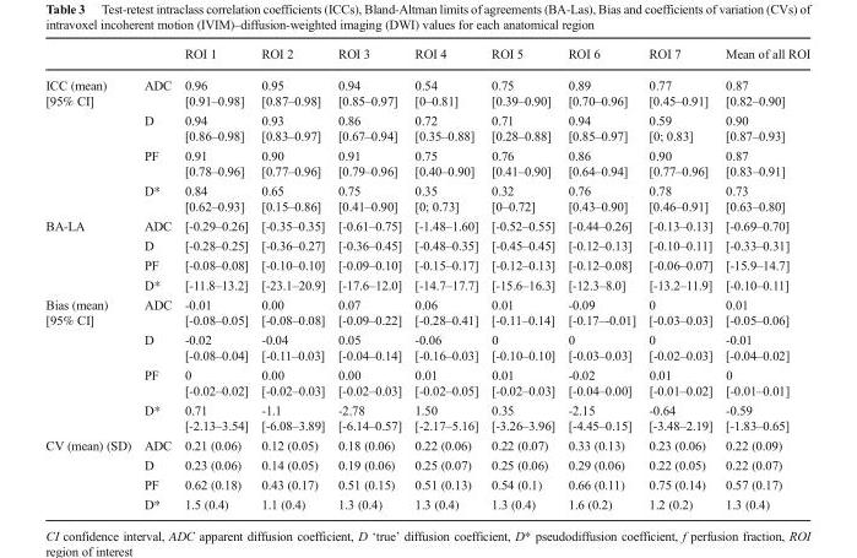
<table><thead><tr><td></td><td></td><td>ROI 1</td><td>ROI 2</td><td>ROI 3</td><td>ROI 4</td><td>ROI 5</td><td>ROI 6</td><td>ROI 7</td><td>Mean of all ROI</td></tr></thead><tbody><tr><td rowspan="4">ICC (mean) [95% CI]</td><td>ADC</td><td>0.96 [0.91–0.98]</td><td>0.95 [0.87–0.98]</td><td>0.94 [0.85–0.97]</td><td>0.54 [0–0.81]</td><td>0.75 [0.39–0.90]</td><td>0.89 [0.70–0.96]</td><td>0.77 [0.45–0.91]</td><td>0.87 [0.82–0.90]</td></tr><tr><td>D</td><td>0.94 [0.86–0.98]</td><td>0.93 [0.83–0.97]</td><td>0.86 [0.67–0.94]</td><td>0.72 [0.35–0.88]</td><td>0.71 [0.28–0.88]</td><td>0.94 [0.85–0.97]</td><td>0.59 [0; 0.83]</td><td>0.90 [0.87–0.93]</td></tr><tr><td>PF</td><td>0.91 [0.78–0.96]</td><td>0.90 [0.77–0.96]</td><td>0.91 [0.79–0.96]</td><td>0.75 [0.40–0.90]</td><td>0.76 [0.41–0.90]</td><td>0.86 [0.64–0.94]</td><td>0.90 [0.77–0.96]</td><td>0.87 [0.83–0.91]</td></tr><tr><td>D*</td><td>0.84 [0.62–0.93]</td><td>0.65 [0.15–0.86]</td><td>0.75 [0.41–0.90]</td><td>0.35 [0; 0.73]</td><td>0.32 [0–0.72]</td><td>0.76 [0.43–0.90]</td><td>0.78 [0.46–0.91]</td><td>0.73 [0.63–0.80]</td></tr><tr><td rowspan="4">BA-LA</td><td>ADC</td><td>[-0.29–0.26]</td><td>[-0.35–0.35]</td><td>[-0.61–0.75]</td><td>[-1.48–1.60]</td><td>[-0.52–0.55]</td><td>[-0.44–0.26]</td><td>[-0.13–0.13]</td><td>[-0.69–0.70]</td></tr><tr><td>D</td><td>[-0.28–0.25]</td><td>[-0.36–0.27]</td><td>[-0.36–0.45]</td><td>[-0.48–0.35]</td><td>[-0.45–0.45]</td><td>[-0.12–0.13]</td><td>[-0.10–0.11]</td><td>[-0.33–0.31]</td></tr><tr><td>PF</td><td>[-0.08–0.08]</td><td>[-0.10–0.10]</td><td>[-0.09–0.10]</td><td>[-0.15–0.17]</td><td>[-0.12–0.13]</td><td>[-0.12–0.08]</td><td>[-0.06–0.07]</td><td>[-15.9–14.7]</td></tr><tr><td>D*</td><td>[-11.8–13.2]</td><td>[-23.1–20.9]</td><td>[-17.6–12.0]</td><td>[-14.7–17.7]</td><td>[-15.6–16.3]</td><td>[-12.3–8.0]</td><td>[-13.2–11.9]</td><td>[-0.10–0.11]</td></tr><tr><td rowspan="4">Bias (mean) [95% CI]</td><td>ADC</td><td>-0.01 [-0.08–0.05]</td><td>0.00 [-0.08–0.08]</td><td>0.07 [-0.09–0.22]</td><td>0.06 [-0.28–0.41]</td><td>0.01 [-0.11–0.14]</td><td>-0.09 [-0.17–-0.01]</td><td>0 [-0.03–0.03]</td><td>0.01 [-0.05–0.06]</td></tr><tr><td>D</td><td>-0.02 [-0.08–0.04]</td><td>-0.04 [-0.11–0.03]</td><td>0.05 [-0.04–0.14]</td><td>-0.06 [-0.16–0.03]</td><td>0 [-0.10–0.10]</td><td>0 [-0.03–0.03]</td><td>0 [-0.02–0.03]</td><td>-0.01 [-0.04–0.02]</td></tr><tr><td>PF</td><td>0 [-0.02–0.02]</td><td>0.00 [-0.02–0.03]</td><td>0.00 [-0.02–0.03]</td><td>0.01 [-0.02–0.05]</td><td>0.01 [-0.02–0.03]</td><td>-0.02 [-0.04–0.00]</td><td>0.01 [-0.01–0.02]</td><td>0 [-0.01–0.01]</td></tr><tr><td>D*</td><td>0.71 [-2.13–3.54]</td><td>-1.1 [-6.08–3.89]</td><td>-2.78 [-6.14–0.57]</td><td>1.50 [-2.17–5.16]</td><td>0.35 [-3.26–3.96]</td><td>-2.15 [-4.45–0.15]</td><td>-0.64 [-3.48–2.19]</td><td>-0.59 [-1.83–0.65]</td></tr><tr><td rowspan="4">CV (mean) (SD)</td><td>ADC</td><td>0.21 (0.06)</td><td>0.12 (0.05)</td><td>0.18 (0.06)</td><td>0.22 (0.06)</td><td>0.22 (0.07)</td><td>0.33 (0.13)</td><td>0.23 (0.06)</td><td>0.22 (0.09)</td></tr><tr><td>D</td><td>0.23 (0.06)</td><td>0.14 (0.05)</td><td>0.19 (0.06)</td><td>0.25 (0.07)</td><td>0.25 (0.06)</td><td>0.29 (0.06)</td><td>0.22 (0.05)</td><td>0.22 (0.07)</td></tr><tr><td>PF</td><td>0.62 (0.18)</td><td>0.43 (0.17)</td><td>0.51 (0.15)</td><td>0.51 (0.13)</td><td>0.54 (0.1)</td><td>0.66 (0.11)</td><td>0.75 (0.14)</td><td>0.57 (0.17)</td></tr><tr><td>D*</td><td>1.5 (0.4)</td><td>1.1 (0.4)</td><td>1.3 (0.4)</td><td>1.3 (0.4)</td><td>1.3 (0.4)</td><td>1.6 (0.2)</td><td>1.2 (0.2)</td><td>1.3 (0.4)</td></tr></tbody></table>